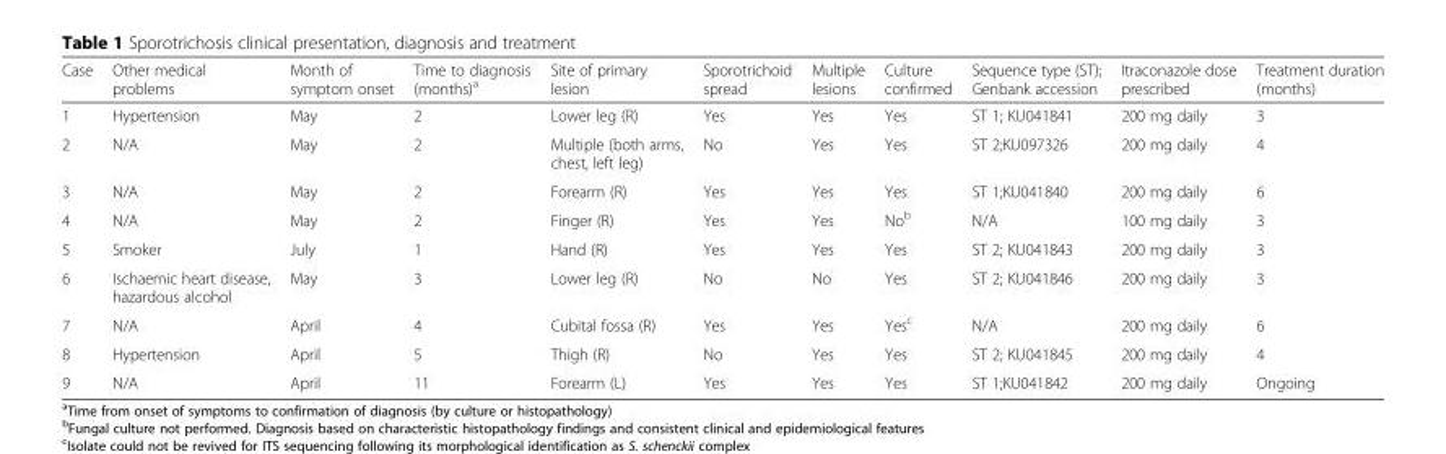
<table><thead><tr><td>Case</td><td>Other medical problems</td><td>Month of symptom onset</td><td>Time to diagnosis (months)<sup>a</sup></td><td>Site of primary lesion</td><td>Sporotrichoid spread</td><td>Multiple lesions</td><td>Culture confirmed</td><td>Sequence type (ST); Genbank accession</td><td>Itraconazole dose prescribed</td><td>Treatment duration (months)</td></tr></thead><tbody><tr><td>1</td><td>Hypertension</td><td>May</td><td>2</td><td>Lower leg (R)</td><td>Yes</td><td>Yes</td><td>Yes</td><td>ST 1; KU041841</td><td>200 mg daily</td><td>3</td></tr><tr><td>2</td><td>N/A</td><td>May</td><td>2</td><td>Multiple (both arms, chest, left leg)</td><td>No</td><td>Yes</td><td>Yes</td><td>ST 2;KU097326</td><td>200 mg daily</td><td>4</td></tr><tr><td>3</td><td>N/A</td><td>May</td><td>2</td><td>Forearm (R)</td><td>Yes</td><td>Yes</td><td>Yes</td><td>ST 1;KU041840</td><td>200 mg daily</td><td>6</td></tr><tr><td>4</td><td>N/A</td><td>May</td><td>2</td><td>Finger (R)</td><td>Yes</td><td>Yes</td><td>No<sup>b</sup></td><td>N/A</td><td>100 mg daily</td><td>3</td></tr><tr><td>5</td><td>Smoker</td><td>July</td><td>1</td><td>Hand (R)</td><td>Yes</td><td>Yes</td><td>Yes</td><td>ST 2; KU041843</td><td>200 mg daily</td><td>3</td></tr><tr><td>6</td><td>Ischaemic heart disease, hazardous alcohol</td><td>May</td><td>3</td><td>Lower leg (R)</td><td>No</td><td>No</td><td>Yes</td><td>ST 2; KU041846</td><td>200 mg daily</td><td>3</td></tr><tr><td>7</td><td>N/A</td><td>April</td><td>4</td><td>Cubital fossa (R)</td><td>Yes</td><td>Yes</td><td>Yes<sup>c</sup></td><td>N/A</td><td>200 mg daily</td><td>6</td></tr><tr><td>8</td><td>Hypertension</td><td>April</td><td>5</td><td>Thigh (R)</td><td>No</td><td>Yes</td><td>Yes</td><td>ST 2; KU041845</td><td>200 mg daily</td><td>4</td></tr><tr><td>9</td><td>N/A</td><td>April</td><td>11</td><td>Forearm (L)</td><td>Yes</td><td>Yes</td><td>Yes</td><td>ST 1;KU041842</td><td>200 mg daily</td><td>Ongoing</td></tr></tbody></table>